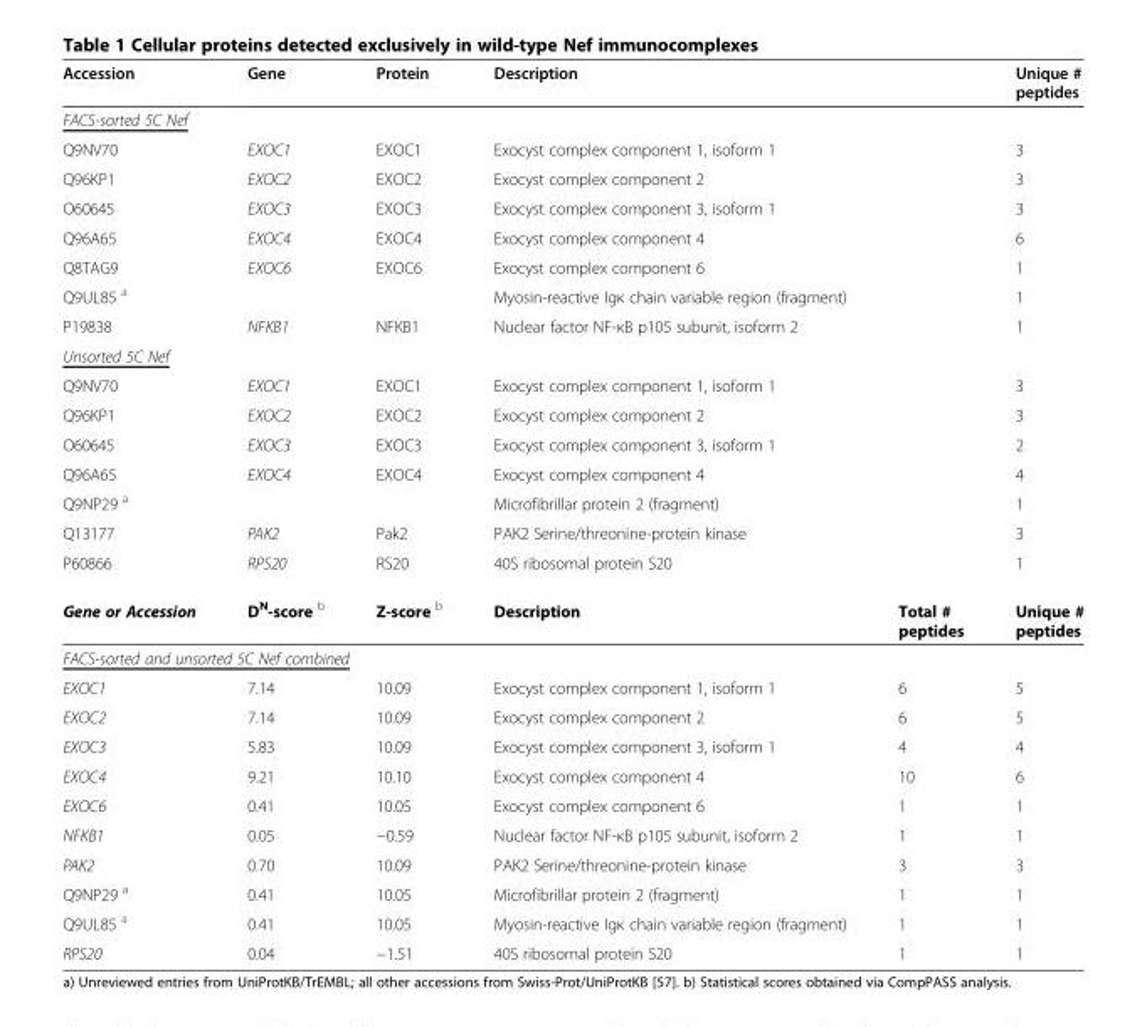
<table><thead><tr><td>Accession</td><td>Gene</td><td>Protein</td><td>Description</td><td></td><td>Unique # peptides</td></tr></thead><tbody><tr><td colspan="6">FACS-sorted 5C Nef</td></tr><tr><td>Q9NV70</td><td>EXOC1</td><td>EXOC1</td><td>Exocyst complex component 1, isoform 1</td><td></td><td>3</td></tr><tr><td>Q96KP1</td><td>EXOC2</td><td>EXOC2</td><td>Exocyst complex component 2</td><td></td><td>3</td></tr><tr><td>O60645</td><td>EXOC3</td><td>EXOC3</td><td>Exocyst complex component 3, isoform 1</td><td></td><td>3</td></tr><tr><td>Q96A65</td><td>EXOC4</td><td>EXOC4</td><td>Exocyst complex component 4</td><td></td><td>6</td></tr><tr><td>Q8TAG9</td><td>EXOC6</td><td>EXOC6</td><td>Exocyst complex component 6</td><td></td><td>1</td></tr><tr><td>Q9UL85 <sup>a</sup></td><td></td><td></td><td>Myosin-reactive Igκ chain variable region (fragment)</td><td></td><td>1</td></tr><tr><td>P19838</td><td>NFKB1</td><td>NFKB1</td><td>Nuclear factor NF-κB p105 subunit, isoform 2</td><td></td><td>1</td></tr><tr><td colspan="6">Unsorted 5C Nef</td></tr><tr><td>Q9NV70</td><td>EXOC1</td><td>EXOC1</td><td>Exocyst complex component 1, isoform 1</td><td></td><td>3</td></tr><tr><td>Q96KP1</td><td>EXOC2</td><td>EXOC2</td><td>Exocyst complex component 2</td><td></td><td>3</td></tr><tr><td>O60645</td><td>EXOC3</td><td>EXOC3</td><td>Exocyst complex component 3, isoform 1</td><td></td><td>2</td></tr><tr><td>Q96A65</td><td>EXOC4</td><td>EXOC4</td><td>Exocyst complex component 4</td><td></td><td>4</td></tr><tr><td>Q9NP29 <sup>a</sup></td><td></td><td></td><td>Microfibrillar protein 2 (fragment)</td><td></td><td>1</td></tr><tr><td>Q13177</td><td>PAK2</td><td>Pak2</td><td>PAK2 Serine/threonine-protein kinase</td><td></td><td>3</td></tr><tr><td>P60866</td><td>RPS20</td><td>RS20</td><td>40S ribosomal protein S20</td><td></td><td>1</td></tr><tr><td>Gene or Accession</td><td>D<sup>N</sup>-score <sup>b</sup></td><td>Z-score <sup>b</sup></td><td>Description</td><td>Total # peptides</td><td>Unique # peptides</td></tr><tr><td colspan="6">FACS-sorted and unsorted 5C Nef combined</td></tr><tr><td>EXOC1</td><td>7.14</td><td>10.09</td><td>Exocyst complex component 1, isoform 1</td><td>6</td><td>5</td></tr><tr><td>EXOC2</td><td>7.14</td><td>10.09</td><td>Exocyst complex component 2</td><td>6</td><td>5</td></tr><tr><td>EXOC3</td><td>5.83</td><td>10.09</td><td>Exocyst complex component 3, isoform 1</td><td>4</td><td>4</td></tr><tr><td>EXOC4</td><td>9.21</td><td>10.10</td><td>Exocyst complex component 4</td><td>10</td><td>6</td></tr><tr><td>EXOC6</td><td>0.41</td><td>10.05</td><td>Exocyst complex component 6</td><td>1</td><td>1</td></tr><tr><td>NFKB1</td><td>0.05</td><td>−0.59</td><td>Nuclear factor NF-κB p105 subunit, isoform 2</td><td>1</td><td>1</td></tr><tr><td>PAK2</td><td>0.70</td><td>10.09</td><td>PAK2 Serine/threonine-protein kinase</td><td>3</td><td>3</td></tr><tr><td>Q9NP29 <sup>a</sup></td><td>0.41</td><td>10.05</td><td>Microfibrillar protein 2 (fragment)</td><td>1</td><td>1</td></tr><tr><td>Q9UL85 <sup>a</sup></td><td>0.41</td><td>10.05</td><td>Myosin-reactive Igκ chain variable region (fragment)</td><td>1</td><td>1</td></tr><tr><td>RPS20</td><td>0.04</td><td>−1.51</td><td>40S ribosomal protein S20</td><td>1</td><td>1</td></tr></tbody></table>